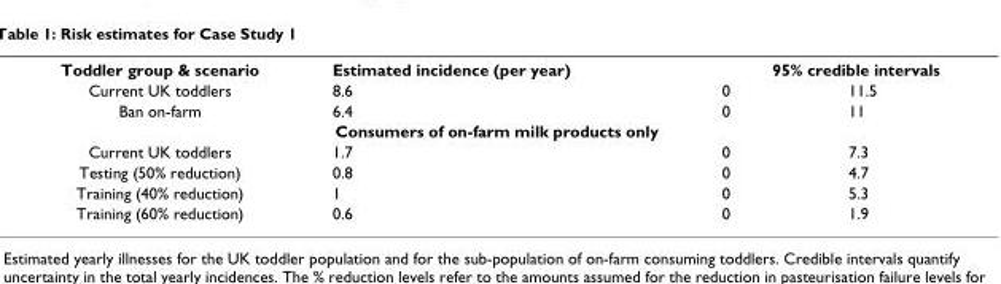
<table><tbody><tr><td>Toddler group &amp; scenario</td><td>Estimated incidence (per year)</td><td colspan="2">95% credible intervals</td></tr><tr><td>Current UK toddlers</td><td>8.6</td><td>0</td><td>11.5</td></tr><tr><td>Ban on-farm</td><td>6.4</td><td>0</td><td>11</td></tr><tr><td colspan="4">Consumers of on-farm milk products only</td></tr><tr><td>Current UK toddlers</td><td>1.7</td><td>0</td><td>7.3</td></tr><tr><td>Testing (50% reduction)</td><td>0.8</td><td>0</td><td>4.7</td></tr><tr><td>Training (40% reduction)</td><td>1</td><td>0</td><td>5.3</td></tr><tr><td>Training (60% reduction)</td><td>0.6</td><td>0</td><td>1.9</td></tr></tbody></table>